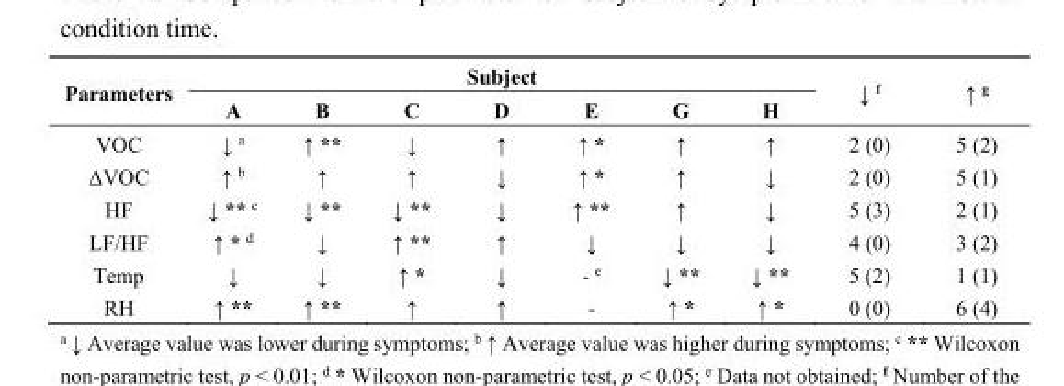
<table><thead><tr><td rowspan="2">Parameters</td><td colspan="7">Subject</td><td rowspan="2">↓ <sup>f</sup></td><td rowspan="2">↑ <sup>g</sup></td></tr><tr><td>A</td><td>B</td><td>C</td><td>D</td><td>E</td><td>G</td><td>H</td></tr></thead><tbody><tr><td>VOC</td><td>↓ <sup>a</sup></td><td>↑ **</td><td>↓</td><td>↑</td><td>↑ *</td><td>↑</td><td>↑</td><td>2 (0)</td><td>5 (2)</td></tr><tr><td>ΔVOC</td><td>↑ <sup>b</sup></td><td>↑</td><td>↑</td><td>↓</td><td>↑ *</td><td>↑</td><td>↓</td><td>2 (0)</td><td>5 (1)</td></tr><tr><td>HF</td><td>↓ ** <sup>c</sup></td><td>↓ **</td><td>↓ **</td><td>↓</td><td>↑ **</td><td>↑</td><td>↓</td><td>5 (3)</td><td>2 (1)</td></tr><tr><td>LF/HF</td><td>↑ * <sup>d</sup></td><td>↓</td><td>↑ **</td><td>↑</td><td>↓</td><td>↓</td><td>↓</td><td>4 (0)</td><td>3 (2)</td></tr><tr><td>Temp</td><td>↓</td><td>↓</td><td>↑ *</td><td>↓</td><td>- <sup>e</sup></td><td>↓ **</td><td>↓ **</td><td>5 (2)</td><td>1 (1)</td></tr><tr><td>RH</td><td>↑ **</td><td>↑ **</td><td>↑</td><td>↑</td><td>-</td><td>↑ *</td><td>↑ *</td><td>0 (0)</td><td>6 (4)</td></tr></tbody></table>